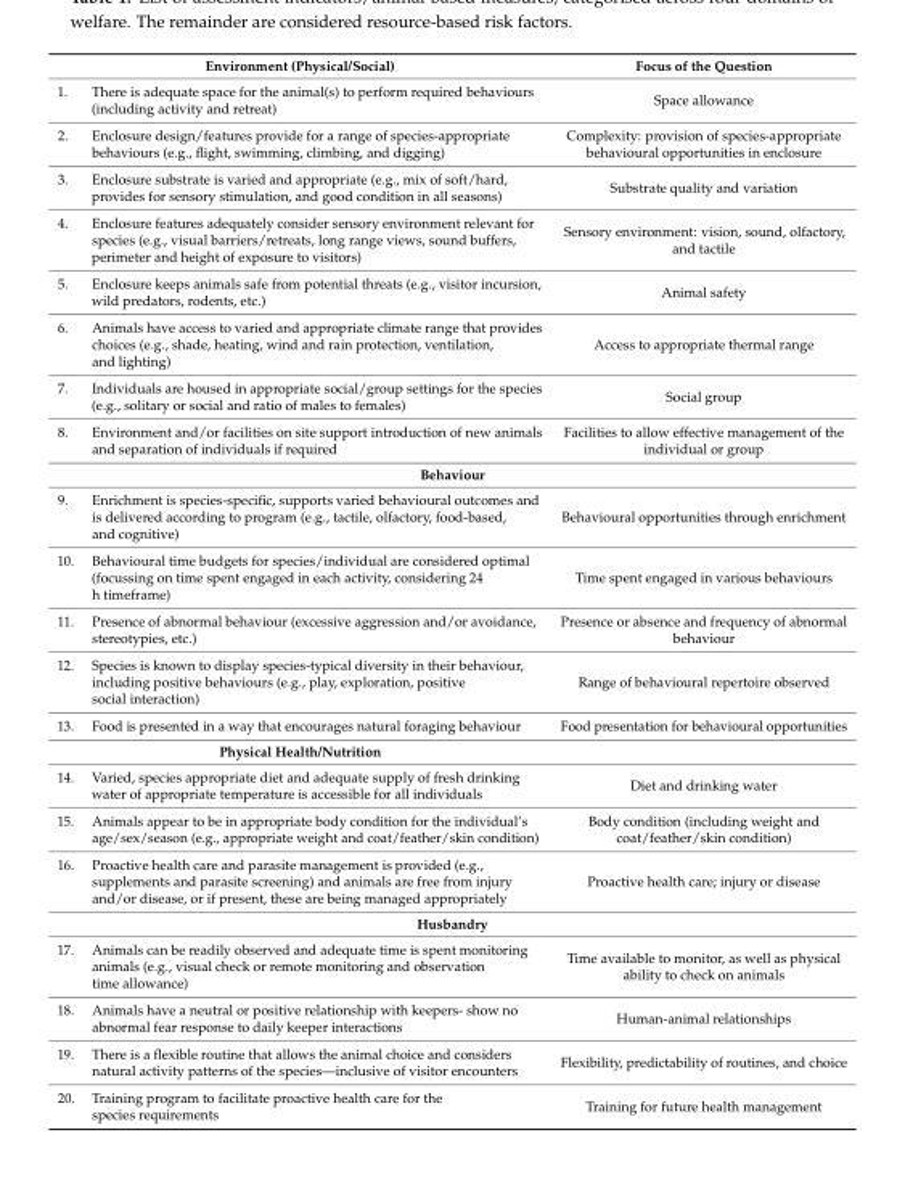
<table><tbody><tr><td>Environment (Physical/Social)</td><td>Focus of the Question</td></tr><tr><td>1. There is adequate space for the animal(s) to perform required behaviours (including activity and retreat)</td><td>Space allowance</td></tr><tr><td>2. Enclosure design/features provide for a range of species-appropriate behaviours (e.g., flight, swimming, climbing, and digging)</td><td>Complexity: provision of species-appropriate behavioural opportunities in enclosure</td></tr><tr><td>3. Enclosure substrate is varied and appropriate (e.g., mix of soft/hard, provides for sensory stimulation, and good condition in all seasons)</td><td>Substrate quality and variation</td></tr><tr><td>4. Enclosure features adequately consider sensory environment relevant for species (e.g., visual barriers/retreats, long range views, sound buffers, perimeter and height of exposure to visitors)</td><td>Sensory environment: vision, sound, olfactory, and tactile</td></tr><tr><td>5. Enclosure keeps animals safe from potential threats (e.g., visitor incursion, wild predators, rodents, etc.)</td><td>Animal safety</td></tr><tr><td>6. Animals have access to varied and appropriate climate range that provides choices (e.g., shade, heating, wind and rain protection, ventilation, and lighting)</td><td>Access to appropriate thermal range</td></tr><tr><td>7. Individuals are housed in appropriate social/group settings for the species (e.g., solitary or social and ratio of males to females)</td><td>Social group</td></tr><tr><td>8. Environment and/or facilities on site support introduction of new animals and separation of individuals if required</td><td>Facilities to allow effective management of the individual or group</td></tr><tr><td colspan="2">Behaviour</td></tr><tr><td>9. Enrichment is species-specific, supports varied behavioural outcomes and is delivered according to program (e.g., tactile, olfactory, food-based, and cognitive)</td><td>Behavioural opportunities through enrichment</td></tr><tr><td>10. Behavioural time budgets for species/individual are considered optimal (focussing on time spent engaged in each activity, considering 24 h timeframe)</td><td>Time spent engaged in various behaviours</td></tr><tr><td>11. Presence of abnormal behaviour (excessive aggression and/or avoidance, stereotypies, etc.)</td><td>Presence or absence and frequency of abnormal behaviour</td></tr><tr><td>12. Species is known to display species-typical diversity in their behaviour, including positive behaviours (e.g., play, exploration, positive social interaction)</td><td>Range of behavioural repertoire observed</td></tr><tr><td>13. Food is presented in a way that encourages natural foraging behaviour</td><td>Food presentation for behavioural opportunities</td></tr><tr><td colspan="2">Physical Health/Nutrition</td></tr><tr><td>14. Varied, species appropriate diet and adequate supply of fresh drinking water of appropriate temperature is accessible for all individuals</td><td>Diet and drinking water</td></tr><tr><td>15. Animals appear to be in appropriate body condition for the individual’s age/sex/season (e.g., appropriate weight and coat/feather/skin condition)</td><td>Body condition (including weight and coat/feather/skin condition)</td></tr><tr><td>16. Proactive health care and parasite management is provided (e.g., supplements and parasite screening) and animals are free from injury and/or disease, or if present, these are being managed appropriately</td><td>Proactive health care; injury or disease</td></tr><tr><td colspan="2">Husbandry</td></tr><tr><td>17. Animals can be readily observed and adequate time is spent monitoring animals (e.g., visual check or remote monitoring and observation time allowance)</td><td>Time available to monitor, as well as physical ability to check on animals</td></tr><tr><td>18. Animals have a neutral or positive relationship with keepers- show no abnormal fear response to daily keeper interactions</td><td>Human-animal relationships</td></tr><tr><td>19. There is a flexible routine that allows the animal choice and considers natural activity patterns of the species—inclusive of visitor encounters</td><td>Flexibility, predictability of routines, and choice</td></tr><tr><td>20. Training program to facilitate proactive health care for the species requirements</td><td>Training for future health management</td></tr></tbody></table>